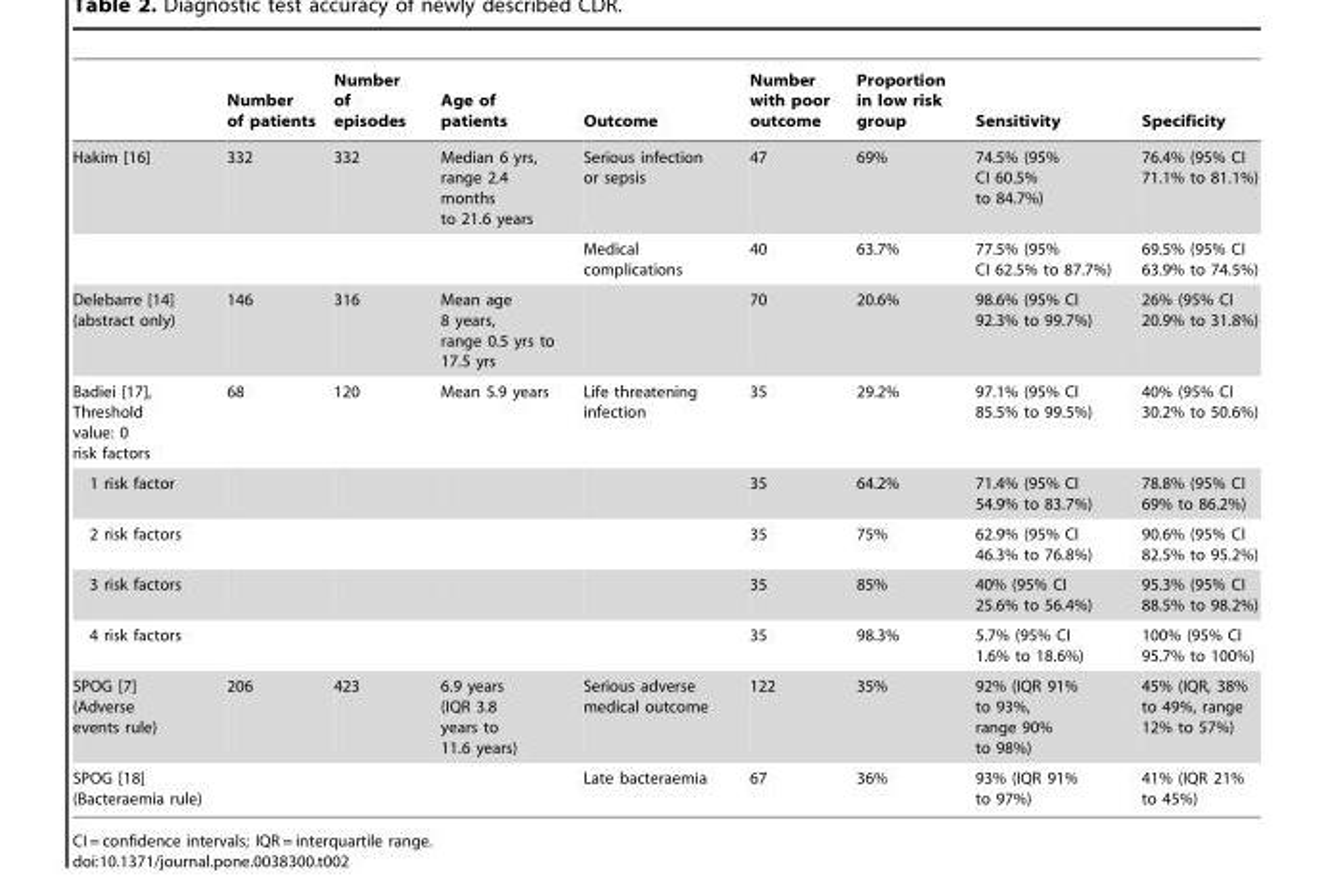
<table><thead><tr><td></td><td>Number of patients</td><td>Number of episodes</td><td>Age of patients</td><td>Outcome</td><td>Number with poor outcome</td><td>Proportion in low risk group</td><td>Sensitivity</td><td>Specificity</td></tr></thead><tbody><tr><td rowspan="2">Hakim [16]</td><td>332</td><td>332</td><td>Median 6 yrs, range 2.4 months to 21.6 years</td><td>Serious infection or sepsis</td><td>47</td><td>69%</td><td>74.5% (95% CI 60.5% to 84.7%)</td><td>76.4% (95% CI 71.1% to 81.1%)</td></tr><tr><td></td><td></td><td></td><td>Medical complications</td><td>40</td><td>63.7%</td><td>77.5% (95% CI 62.5% to 87.7%)</td><td>69.5% (95% CI 63.9% to 74.5%)</td></tr><tr><td>Delebarre [14] (abstract only)</td><td>146</td><td>316</td><td>Mean age 8 years, range 0.5 yrs to 17.5 yrs</td><td></td><td>70</td><td>20.6%</td><td>98.6% (95% CI 92.3% to 99.7%)</td><td>26% (95% CI 20.9% to 31.8%)</td></tr><tr><td>Badiei [17], Threshold value: 0 risk factors</td><td>68</td><td>120</td><td>Mean 5.9 years</td><td>Life threatening infection</td><td>35</td><td>29.2%</td><td>97.1% (95% CI 85.5% to 99.5%)</td><td>40% (95% CI 30.2% to 50.6%)</td></tr><tr><td>1 risk factor</td><td></td><td></td><td></td><td></td><td>35</td><td>64.2%</td><td>71.4% (95% CI 54.9% to 83.7%)</td><td>78.8% (95% CI 69% to 86.2%)</td></tr><tr><td>2 risk factors</td><td></td><td></td><td></td><td></td><td>35</td><td>75%</td><td>62.9% (95% CI 46.3% to 76.8%)</td><td>90.6% (95% CI 82.5% to 95.2%)</td></tr><tr><td>3 risk factors</td><td></td><td></td><td></td><td></td><td>35</td><td>85%</td><td>40% (95% CI 25.6% to 56.4%)</td><td>95.3% (95% CI 88.5% to 98.2%)</td></tr><tr><td>4 risk factors</td><td></td><td></td><td></td><td></td><td>35</td><td>98.3%</td><td>5.7% (95% CI 1.6% to 18.6%)</td><td>100% (95% CI 95.7% to 100%)</td></tr><tr><td>SPOG [7] (Adverse events rule)</td><td>206</td><td>423</td><td>6.9 years (IQR 3.8 years to 11.6 years)</td><td>Serious adverse medical outcome</td><td>122</td><td>35%</td><td>92% (IQR 91% to 93%, range 90% to 98%)</td><td>45% (IQR, 38% to 49%, range 12% to 57%)</td></tr><tr><td>SPOG [18] (Bacteraemia rule)</td><td></td><td></td><td></td><td>Late bacteraemia</td><td>67</td><td>36%</td><td>93% (IQR 91% to 97%)</td><td>41% (IQR 21% to 45%)</td></tr></tbody></table>